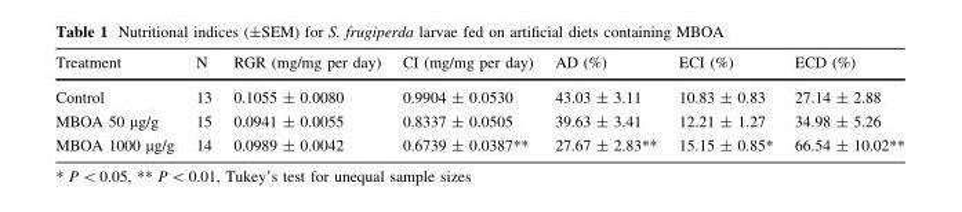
<table><thead><tr><td>Treatment</td><td>N</td><td>RGR (mg/mg per day)</td><td>CI (mg/mg per day)</td><td>AD (%)</td><td>ECI (%)</td><td>ECD (%)</td></tr></thead><tbody><tr><td>Control</td><td>13</td><td>0.1055 ± 0.0080</td><td>0.9904 ± 0.0530</td><td>43.03 ± 3.11</td><td>10.83 ± 0.83</td><td>27.14 ± 2.88</td></tr><tr><td>MBOA 50 µg/g</td><td>15</td><td>0.0941 ± 0.0055</td><td>0.8337 ± 0.0505</td><td>39.63 ± 3.41</td><td>12.21 ± 1.27</td><td>34.98 ± 5.26</td></tr><tr><td>MBOA 1000 µg/g</td><td>14</td><td>0.0989 ± 0.0042</td><td>0.6739 ± 0.0387**</td><td>27.67 ± 2.83**</td><td>15.15 ± 0.85*</td><td>66.54 ± 10.02**</td></tr></tbody></table>